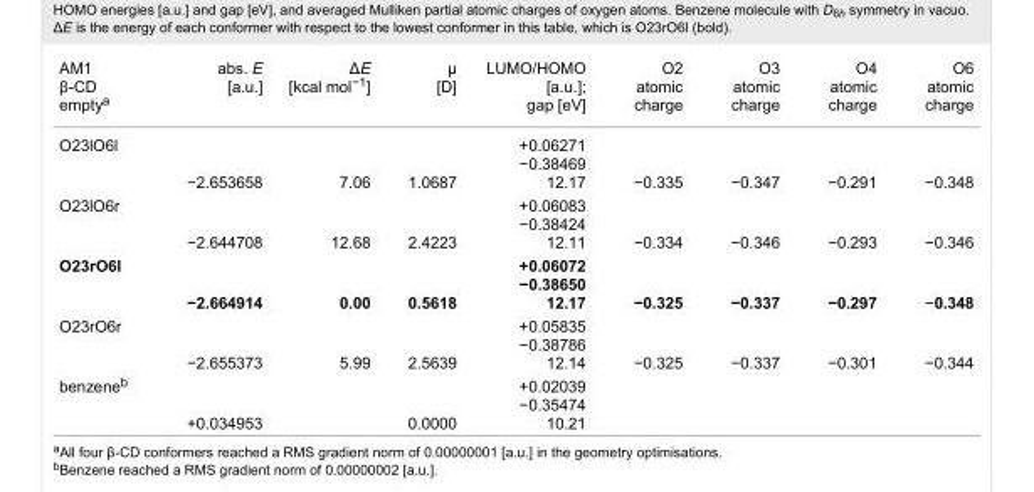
<table><tbody><tr><td>AM1 β-CD empty<sup>a</sup></td><td>abs. E [a.u.]</td><td>ΔE [kcal mol<sup>−1</sup>]</td><td>μ [D]</td><td>LUMO/HOMO [a.u.]; gap [eV]</td><td>O2 atomic charge</td><td>O3 atomic charge</td><td>O4 atomic charge</td><td>O6 atomic charge</td></tr><tr><td>O23lO6l</td><td>−2.653658</td><td>7.06</td><td>1.0687</td><td>+0.06271 −0.38469 12.17</td><td>−0.335</td><td>−0.347</td><td>−0.291</td><td>−0.348</td></tr><tr><td>O23lO6r</td><td>−2.644708</td><td>12.68</td><td>2.4223</td><td>+0.06083 −0.38424 12.11</td><td>−0.334</td><td>−0.346</td><td>−0.293</td><td>−0.346</td></tr><tr><td>O23rO6l</td><td>−2.664914</td><td>0.00</td><td>0.5618</td><td>+0.06072 −0.38650 12.17</td><td>−0.325</td><td>−0.337</td><td>−0.297</td><td>−0.348</td></tr><tr><td>O23rO6r</td><td>−2.655373</td><td>5.99</td><td>2.5639</td><td>+0.05835 −0.38786 12.14</td><td>−0.325</td><td>−0.337</td><td>−0.301</td><td>−0.344</td></tr><tr><td>benzene<sup>b</sup></td><td>+0.034953</td><td></td><td>0.0000</td><td>+0.02039 −0.35474 10.21</td><td></td><td></td><td></td><td></td></tr></tbody></table>